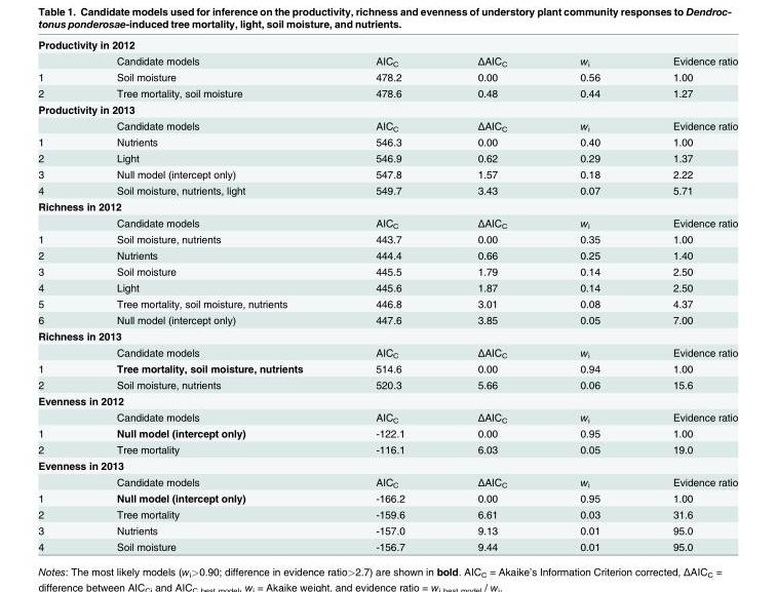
<table><tbody><tr><td colspan="6">Productivity in 2012</td></tr><tr><td></td><td>Candidate models</td><td>AIC<sub>C</sub></td><td>ΔAIC<sub>C</sub></td><td>w<sub>i</sub></td><td>Evidence ratio</td></tr><tr><td>1</td><td>Soil moisture</td><td>478.2</td><td>0.00</td><td>0.56</td><td>1.00</td></tr><tr><td>2</td><td>Tree mortality, soil moisture</td><td>478.6</td><td>0.48</td><td>0.44</td><td>1.27</td></tr><tr><td colspan="6">Productivity in 2013</td></tr><tr><td></td><td>Candidate models</td><td>AIC<sub>C</sub></td><td>ΔAIC<sub>C</sub></td><td>w<sub>i</sub></td><td>Evidence ratio</td></tr><tr><td>1</td><td>Nutrients</td><td>546.3</td><td>0.00</td><td>0.40</td><td>1.00</td></tr><tr><td>2</td><td>Light</td><td>546.9</td><td>0.62</td><td>0.29</td><td>1.37</td></tr><tr><td>3</td><td>Null model (intercept only)</td><td>547.8</td><td>1.57</td><td>0.18</td><td>2.22</td></tr><tr><td>4</td><td>Soil moisture, nutrients, light</td><td>549.7</td><td>3.43</td><td>0.07</td><td>5.71</td></tr><tr><td colspan="6">Richness in 2012</td></tr><tr><td></td><td>Candidate models</td><td>AIC<sub>C</sub></td><td>ΔAIC<sub>C</sub></td><td>w<sub>i</sub></td><td>Evidence ratio</td></tr><tr><td>1</td><td>Soil moisture, nutrients</td><td>443.7</td><td>0.00</td><td>0.35</td><td>1.00</td></tr><tr><td>2</td><td>Nutrients</td><td>444.4</td><td>0.66</td><td>0.25</td><td>1.40</td></tr><tr><td>3</td><td>Soil moisture</td><td>445.5</td><td>1.79</td><td>0.14</td><td>2.50</td></tr><tr><td>4</td><td>Light</td><td>445.6</td><td>1.87</td><td>0.14</td><td>2.50</td></tr><tr><td>5</td><td>Tree mortality, soil moisture, nutrients</td><td>446.8</td><td>3.01</td><td>0.08</td><td>4.37</td></tr><tr><td>6</td><td>Null model (intercept only)</td><td>447.6</td><td>3.85</td><td>0.05</td><td>7.00</td></tr><tr><td colspan="6">Richness in 2013</td></tr><tr><td></td><td>Candidate models</td><td>AIC<sub>C</sub></td><td>ΔAIC<sub>C</sub></td><td>w<sub>i</sub></td><td>Evidence ratio</td></tr><tr><td>1</td><td>Tree mortality, soil moisture, nutrients</td><td>514.6</td><td>0.00</td><td>0.94</td><td>1.00</td></tr><tr><td>2</td><td>Soil moisture, nutrients</td><td>520.3</td><td>5.66</td><td>0.06</td><td>15.6</td></tr><tr><td colspan="6">Evenness in 2012</td></tr><tr><td></td><td>Candidate models</td><td>AIC<sub>C</sub></td><td>ΔAIC<sub>C</sub></td><td>w<sub>i</sub></td><td>Evidence ratio</td></tr><tr><td>1</td><td>Null model (intercept only)</td><td>-122.1</td><td>0.00</td><td>0.95</td><td>1.00</td></tr><tr><td>2</td><td>Tree mortality</td><td>-116.1</td><td>6.03</td><td>0.05</td><td>19.0</td></tr><tr><td colspan="6">Evenness in 2013</td></tr><tr><td></td><td>Candidate models</td><td>AIC<sub>C</sub></td><td>ΔAIC<sub>C</sub></td><td>w<sub>i</sub></td><td>Evidence ratio</td></tr><tr><td>1</td><td>Null model (intercept only)</td><td>-166.2</td><td>0.00</td><td>0.95</td><td>1.00</td></tr><tr><td>2</td><td>Tree mortality</td><td>-159.6</td><td>6.61</td><td>0.03</td><td>31.6</td></tr><tr><td>3</td><td>Nutrients</td><td>-157.0</td><td>9.13</td><td>0.01</td><td>95.0</td></tr><tr><td>4</td><td>Soil moisture</td><td>-156.7</td><td>9.44</td><td>0.01</td><td>95.0</td></tr></tbody></table>